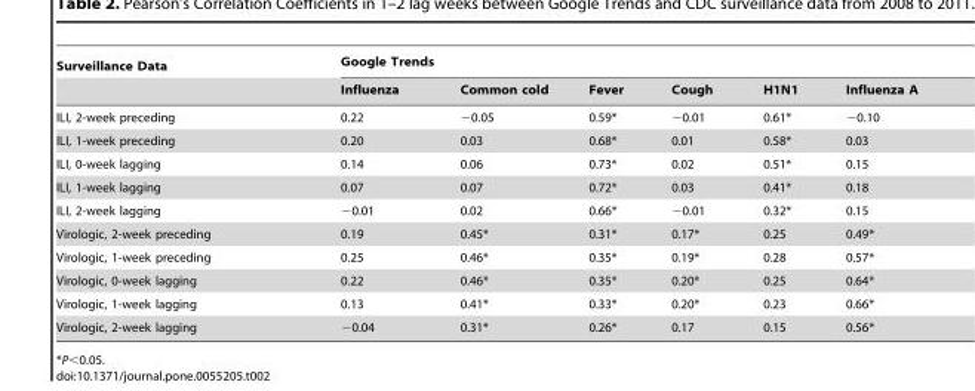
<table><thead><tr><td rowspan="2">Surveillance Data</td><td colspan="6">Google Trends</td></tr><tr><td>Influenza</td><td>Common cold</td><td>Fever</td><td>Cough</td><td>H1N1</td><td>Influenza A</td></tr></thead><tbody><tr><td>ILI, 2-week preceding</td><td>0.22</td><td>−0.05</td><td>0.59*</td><td>−0.01</td><td>0.61*</td><td>−0.10</td></tr><tr><td>ILI, 1-week preceding</td><td>0.20</td><td>0.03</td><td>0.68*</td><td>0.01</td><td>0.58*</td><td>0.03</td></tr><tr><td>ILI, 0-week lagging</td><td>0.14</td><td>0.06</td><td>0.73*</td><td>0.02</td><td>0.51*</td><td>0.15</td></tr><tr><td>ILI, 1-week lagging</td><td>0.07</td><td>0.07</td><td>0.72*</td><td>0.03</td><td>0.41*</td><td>0.18</td></tr><tr><td>ILI, 2-week lagging</td><td>−0.01</td><td>0.02</td><td>0.66*</td><td>−0.01</td><td>0.32*</td><td>0.15</td></tr><tr><td>Virologic, 2-week preceding</td><td>0.19</td><td>0.45*</td><td>0.31*</td><td>0.17*</td><td>0.25</td><td>0.49*</td></tr><tr><td>Virologic, 1-week preceding</td><td>0.25</td><td>0.46*</td><td>0.35*</td><td>0.19*</td><td>0.28</td><td>0.57*</td></tr><tr><td>Virologic, 0-week lagging</td><td>0.22</td><td>0.46*</td><td>0.35*</td><td>0.20*</td><td>0.25</td><td>0.64*</td></tr><tr><td>Virologic, 1-week lagging</td><td>0.13</td><td>0.41*</td><td>0.33*</td><td>0.20*</td><td>0.23</td><td>0.66*</td></tr><tr><td>Virologic, 2-week lagging</td><td>−0.04</td><td>0.31*</td><td>0.26*</td><td>0.17</td><td>0.15</td><td>0.56*</td></tr></tbody></table>